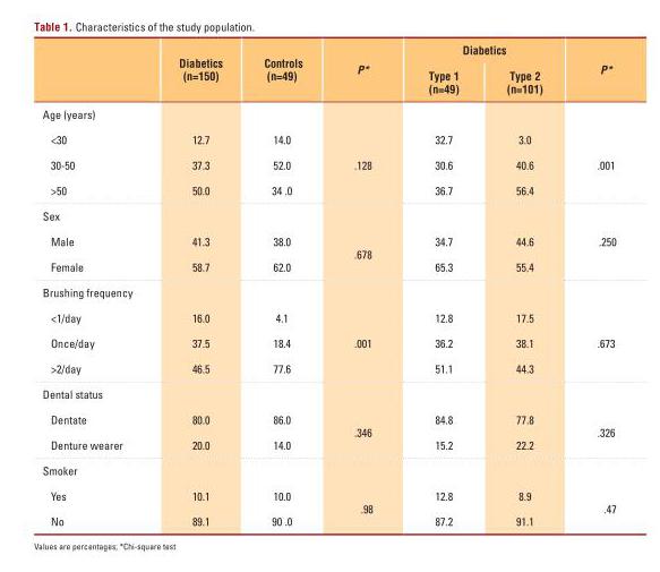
<table><thead><tr><td rowspan="2"></td><td rowspan="2">Diabetics (n=150)</td><td rowspan="2">Controls (n=49)</td><td rowspan="2">P*</td><td colspan="2">Diabetics</td><td rowspan="2">P*</td></tr><tr><td>Type 1 (n=49)</td><td>Type 2 (n=101)</td></tr></thead><tbody><tr><td colspan="7">Age (years)</td></tr><tr><td>&lt;30</td><td>12.7</td><td>14.0</td><td></td><td>32.7</td><td>3.0</td><td></td></tr><tr><td>30-50</td><td>37.3</td><td>52.0</td><td>.128</td><td>30.6</td><td>40.6</td><td>.001</td></tr><tr><td>&gt;50</td><td>50.0</td><td>34 .0</td><td></td><td>36.7</td><td>56.4</td><td></td></tr><tr><td colspan="7">Sex</td></tr><tr><td>Male</td><td>41.3</td><td>38.0</td><td rowspan="2">.678</td><td>34.7</td><td>44.6</td><td rowspan="2">.250</td></tr><tr><td>Female</td><td>58.7</td><td>62.0</td><td>65.3</td><td>55.4</td></tr><tr><td colspan="7">Brushing frequency</td></tr><tr><td>&lt;1/day</td><td>16.0</td><td>4.1</td><td></td><td>12.8</td><td>17.5</td><td></td></tr><tr><td>Once/day</td><td>37.5</td><td>18.4</td><td>.001</td><td>36.2</td><td>38.1</td><td>.673</td></tr><tr><td>&gt;2/day</td><td>46.5</td><td>77.6</td><td></td><td>51.1</td><td>44.3</td><td></td></tr><tr><td colspan="7">Dental status</td></tr><tr><td>Dentate</td><td>80.0</td><td>86.0</td><td rowspan="2">.346</td><td>84.8</td><td>77.8</td><td rowspan="2">.326</td></tr><tr><td>Denture wearer</td><td>20.0</td><td>14.0</td><td>15.2</td><td>22.2</td></tr><tr><td colspan="7">Smoker</td></tr><tr><td>Yes</td><td>10.1</td><td>10.0</td><td rowspan="2">.98</td><td>12.8</td><td>8.9</td><td rowspan="2">.47</td></tr><tr><td>No</td><td>89.1</td><td>90 .0</td><td>87.2</td><td>91.1</td></tr></tbody></table>